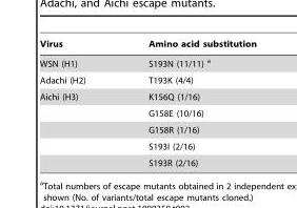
<table><thead><tr><td>Virus</td><td>Amino acid substitution</td></tr></thead><tbody><tr><td>WSN (H1)</td><td>S193N (11/11) a</td></tr><tr><td>Adachi (H2)</td><td>T193K (4/4)</td></tr><tr><td rowspan="5">Aichi (H3)</td><td>K156Q (1/16)</td></tr><tr><td>G158E (10/16)</td></tr><tr><td>G158R (1/16)</td></tr><tr><td>S193I (2/16)</td></tr><tr><td>S193R (2/16)</td></tr></tbody></table>